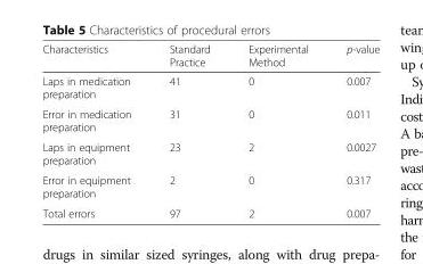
<table><thead><tr><td>Characteristics</td><td>Standard Practice</td><td>Experimental Method</td><td>p-value</td></tr></thead><tbody><tr><td>Laps in medication preparation</td><td>41</td><td>0</td><td>0.007</td></tr><tr><td>Error in medication preparation</td><td>31</td><td>0</td><td>0.011</td></tr><tr><td>Laps in equipment preparation</td><td>23</td><td>2</td><td>0.0027</td></tr><tr><td>Error in equipment preparation</td><td>2</td><td>0</td><td>0.317</td></tr><tr><td>Total errors</td><td>97</td><td>2</td><td>0.007</td></tr></tbody></table>